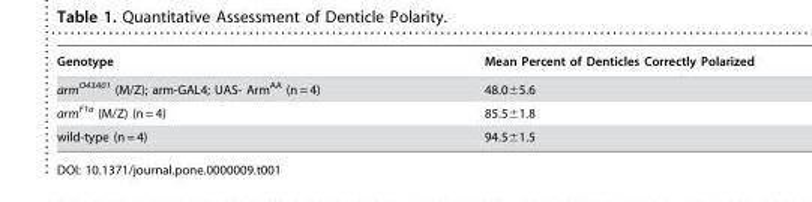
<table><thead><tr><td>Genotype</td><td>Mean Percent of Denticles Correctly Polarized</td></tr></thead><tbody><tr><td>arm<sup>O43A01</sup> (M/Z); arm-GAL4; UAS- Arm<sup>AA</sup> (n = 4)</td><td>48.0±5.6</td></tr><tr><td>arm<sup>F1a</sup> (M/Z) (n = 4)</td><td>85.5±1.8</td></tr><tr><td>wild-type (n = 4)</td><td>94.5±1.5</td></tr></tbody></table>